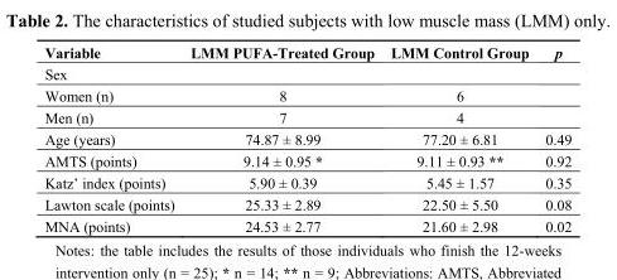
<table><thead><tr><td>Variable</td><td>LMM PUFA-Treated Group</td><td>LMM Control Group</td><td>p</td></tr></thead><tbody><tr><td colspan="4">Sex</td></tr><tr><td>Women (n)</td><td>8</td><td>6</td><td></td></tr><tr><td>Men (n)</td><td>7</td><td>4</td><td></td></tr><tr><td>Age (years)</td><td>74.87 ± 8.99</td><td>77.20 ± 6.81</td><td>0.49</td></tr><tr><td>AMTS (points)</td><td>9.14 ± 0.95 *</td><td>9.11 ± 0.93 **</td><td>0.92</td></tr><tr><td>Katz’ index (points)</td><td>5.90 ± 0.39</td><td>5.45 ± 1.57</td><td>0.35</td></tr><tr><td>Lawton scale (points)</td><td>25.33 ± 2.89</td><td>22.50 ± 5.50</td><td>0.08</td></tr><tr><td>MNA (points)</td><td>24.53 ± 2.77</td><td>21.60 ± 2.98</td><td>0.02</td></tr></tbody></table>